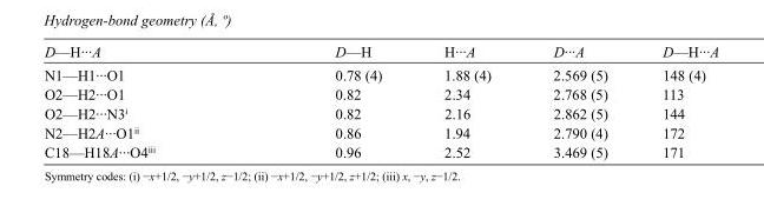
<table><tbody><tr><td>D—H···A</td><td>D—H</td><td>H···A</td><td>D···A</td><td>D—H···A</td></tr><tr><td>N1—H1···O1</td><td>0.78 (4)</td><td>1.88 (4)</td><td>2.569 (5)</td><td>148 (4)</td></tr><tr><td>O2—H2···O1</td><td>0.82</td><td>2.34</td><td>2.768 (5)</td><td>113</td></tr><tr><td>O2—H2···N3<sup>i</sup></td><td>0.82</td><td>2.16</td><td>2.862 (5)</td><td>144</td></tr><tr><td>N2—H2A···O1<sup>ii</sup></td><td>0.86</td><td>1.94</td><td>2.790 (4)</td><td>172</td></tr><tr><td>C18—H18A···O4<sup>iii</sup></td><td>0.96</td><td>2.52</td><td>3.469 (5)</td><td>171</td></tr></tbody></table>